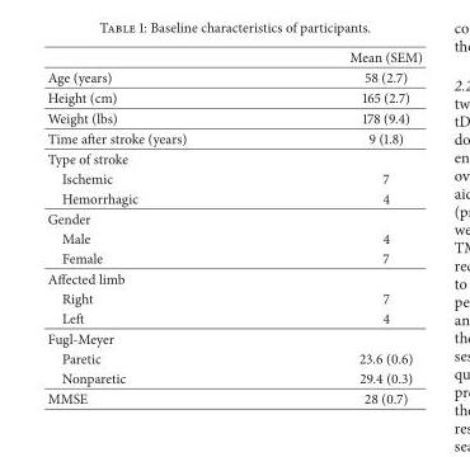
<table><thead><tr><td></td><td>Mean (SEM)</td></tr></thead><tbody><tr><td>Age (years)</td><td>58 (2.7)</td></tr><tr><td>Height (cm)</td><td>165 (2.7)</td></tr><tr><td>Weight (lbs)</td><td>178 (9.4)</td></tr><tr><td>Time after stroke (years)</td><td>9 (1.8)</td></tr><tr><td colspan="2">Type of stroke</td></tr><tr><td>Ischemic</td><td>7</td></tr><tr><td>Hemorrhagic</td><td>4</td></tr><tr><td colspan="2">Gender</td></tr><tr><td>Male</td><td>4</td></tr><tr><td>Female</td><td>7</td></tr><tr><td colspan="2">Affected limb</td></tr><tr><td>Right</td><td>7</td></tr><tr><td>Left</td><td>4</td></tr><tr><td colspan="2">Fugl-Meyer</td></tr><tr><td>Paretic</td><td>23.6 (0.6)</td></tr><tr><td>Nonparetic</td><td>29.4 (0.3)</td></tr><tr><td>MMSE</td><td>28 (0.7)</td></tr></tbody></table>